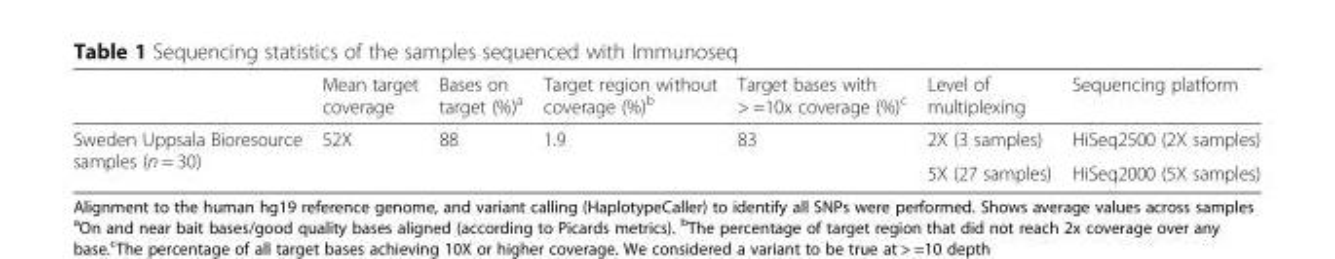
<table><thead><tr><td></td><td>Mean target coverage</td><td>Bases on target (%)<sup>a</sup></td><td>Target region without coverage (%)<sup>b</sup></td><td>Target bases with &gt; =10x coverage (%)<sup>c</sup></td><td>Level of multiplexing</td><td>Sequencing platform</td></tr></thead><tbody><tr><td rowspan="2">Sweden Uppsala Bioresource samples (n = 30)</td><td rowspan="2">52X</td><td rowspan="2">88</td><td rowspan="2">1.9</td><td rowspan="2">83</td><td>2X (3 samples)</td><td>HiSeq2500 (2X samples)</td></tr><tr><td>5X (27 samples)</td><td>HiSeq2000 (5X samples)</td></tr></tbody></table>